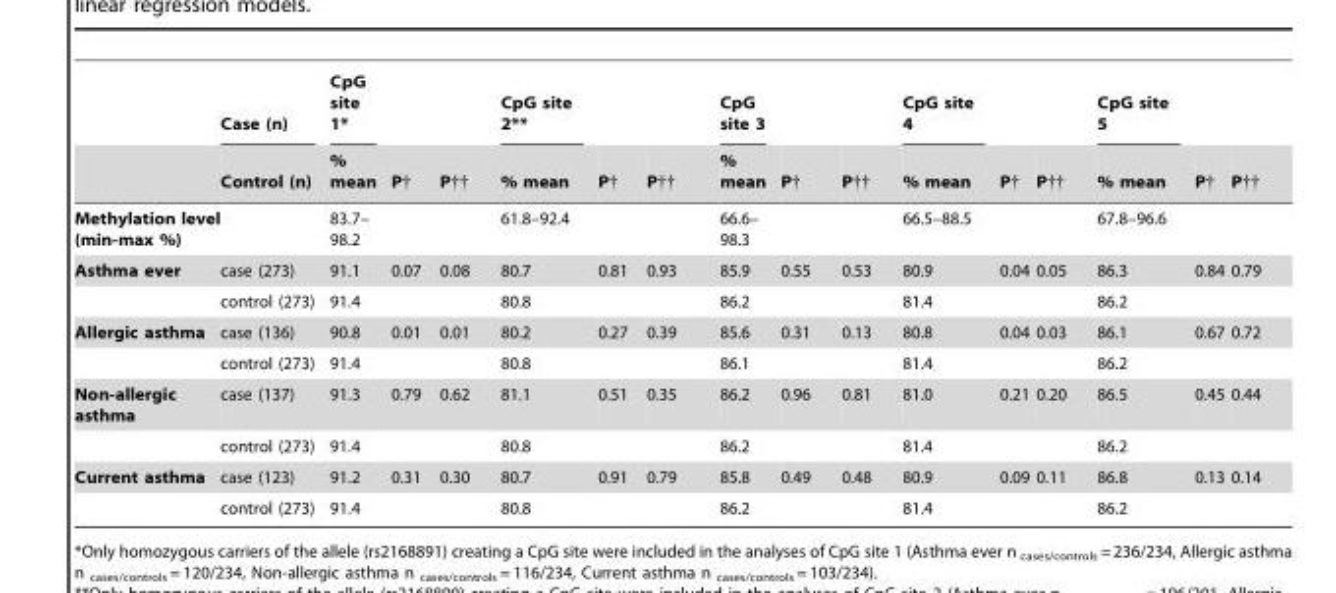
<table><thead><tr><td rowspan="2"></td><td rowspan="2">Case (n) Control (n)</td><td rowspan="2">CpG site 1* % mean</td><td rowspan="2">P†</td><td rowspan="2">P††</td><td rowspan="2">CpG site 2** % mean</td><td rowspan="2">P†</td><td rowspan="2">P††</td><td rowspan="2">CpG site 3 % mean</td><td rowspan="2">P†</td><td rowspan="2">P††</td><td rowspan="2">CpG site 4 % mean</td><td rowspan="2">P†</td><td rowspan="2">P††</td><td rowspan="2">CpG site 5 % mean</td><td rowspan="2">P†</td><td rowspan="2">P††</td></tr><tr></tr></thead><tbody><tr><td>Methylation level (min-max %)</td><td></td><td>83.7– 98.2</td><td></td><td></td><td>61.8–92.4</td><td></td><td></td><td>66.6– 98.3</td><td></td><td></td><td>66.5–88.5</td><td></td><td></td><td>67.8–96.6</td><td></td><td></td></tr><tr><td rowspan="2">Asthma ever</td><td>case (273)</td><td>91.1</td><td>0.07</td><td>0.08</td><td>80.7</td><td>0.81</td><td>0.93</td><td>85.9</td><td>0.55</td><td>0.53</td><td>80.9</td><td>0.04</td><td>0.05</td><td>86.3</td><td>0.84</td><td>0.79</td></tr><tr><td>control (273)</td><td>91.4</td><td></td><td></td><td>80.8</td><td></td><td></td><td>86.2</td><td></td><td></td><td>81.4</td><td></td><td></td><td>86.2</td><td></td><td></td></tr><tr><td rowspan="2">Allergic asthma</td><td>case (136)</td><td>90.8</td><td>0.01</td><td>0.01</td><td>80.2</td><td>0.27</td><td>0.39</td><td>85.6</td><td>0.31</td><td>0.13</td><td>80.8</td><td>0.04</td><td>0.03</td><td>86.1</td><td>0.67</td><td>0.72</td></tr><tr><td>control (273)</td><td>91.4</td><td></td><td></td><td>80.8</td><td></td><td></td><td>86.1</td><td></td><td></td><td>81.4</td><td></td><td></td><td>86.2</td><td></td><td></td></tr><tr><td rowspan="2">Non-allergic asthma</td><td>case (137)</td><td>91.3</td><td>0.79</td><td>0.62</td><td>81.1</td><td>0.51</td><td>0.35</td><td>86.2</td><td>0.96</td><td>0.81</td><td>81.0</td><td>0.21</td><td>0.20</td><td>86.5</td><td>0.45</td><td>0.44</td></tr><tr><td>control (273)</td><td>91.4</td><td></td><td></td><td>80.8</td><td></td><td></td><td>86.2</td><td></td><td></td><td>81.4</td><td></td><td></td><td>86.2</td><td></td><td></td></tr><tr><td rowspan="2">Current asthma</td><td>case (123)</td><td>91.2</td><td>0.31</td><td>0.30</td><td>80.7</td><td>0.91</td><td>0.79</td><td>85.8</td><td>0.49</td><td>0.48</td><td>80.9</td><td>0.09</td><td>0.11</td><td>86.8</td><td>0.13</td><td>0.14</td></tr><tr><td>control (273)</td><td>91.4</td><td></td><td></td><td>80.8</td><td></td><td></td><td>86.2</td><td></td><td></td><td>81.4</td><td></td><td></td><td>86.2</td><td></td><td></td></tr></tbody></table>